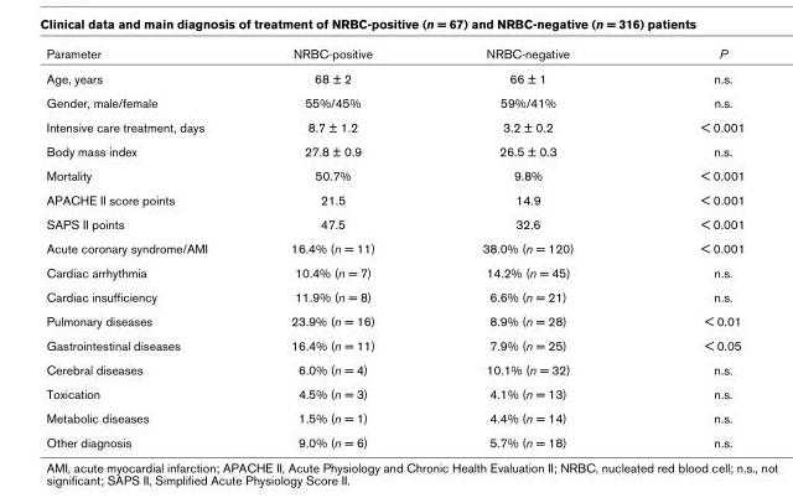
<table><thead><tr><td>Parameter</td><td>NRBC-positive</td><td>NRBC-negative</td><td>P</td></tr></thead><tbody><tr><td>Age, years</td><td>68 ± 2</td><td>66 ± 1</td><td>n.s.</td></tr><tr><td>Gender, male/female</td><td>55%/45%</td><td>59%/41%</td><td>n.s.</td></tr><tr><td>Intensive care treatment, days</td><td>8.7 ± 1.2</td><td>3.2 ± 0.2</td><td>&lt; 0.001</td></tr><tr><td>Body mass index</td><td>27.8 ± 0.9</td><td>26.5 ± 0.3</td><td>n.s.</td></tr><tr><td>Mortality</td><td>50.7%</td><td>9.8%</td><td>&lt; 0.001</td></tr><tr><td>APACHE II score points</td><td>21.5</td><td>14.9</td><td>&lt; 0.001</td></tr><tr><td>SAPS II points</td><td>47.5</td><td>32.6</td><td>&lt; 0.001</td></tr><tr><td>Acute coronary syndrome/AMI</td><td>16.4% (n = 11)</td><td>38.0% (n = 120)</td><td>&lt; 0.001</td></tr><tr><td>Cardiac arrhythmia</td><td>10.4% (n = 7)</td><td>14.2% (n = 45)</td><td>n.s.</td></tr><tr><td>Cardiac insufficiency</td><td>11.9% (n = 8)</td><td>6.6% (n = 21)</td><td>n.s.</td></tr><tr><td>Pulmonary diseases</td><td>23.9% (n = 16)</td><td>8.9% (n = 28)</td><td>&lt; 0.01</td></tr><tr><td>Gastrointestinal diseases</td><td>16.4% (n = 11)</td><td>7.9% (n = 25)</td><td>&lt; 0.05</td></tr><tr><td>Cerebral diseases</td><td>6.0% (n = 4)</td><td>10.1% (n = 32)</td><td>n.s.</td></tr><tr><td>Toxication</td><td>4.5% (n = 3)</td><td>4.1% (n = 13)</td><td>n.s.</td></tr><tr><td>Metabolic diseases</td><td>1.5% (n = 1)</td><td>4.4% (n = 14)</td><td>n.s.</td></tr><tr><td>Other diagnosis</td><td>9.0% (n = 6)</td><td>5.7% (n = 18)</td><td>n.s.</td></tr></tbody></table>